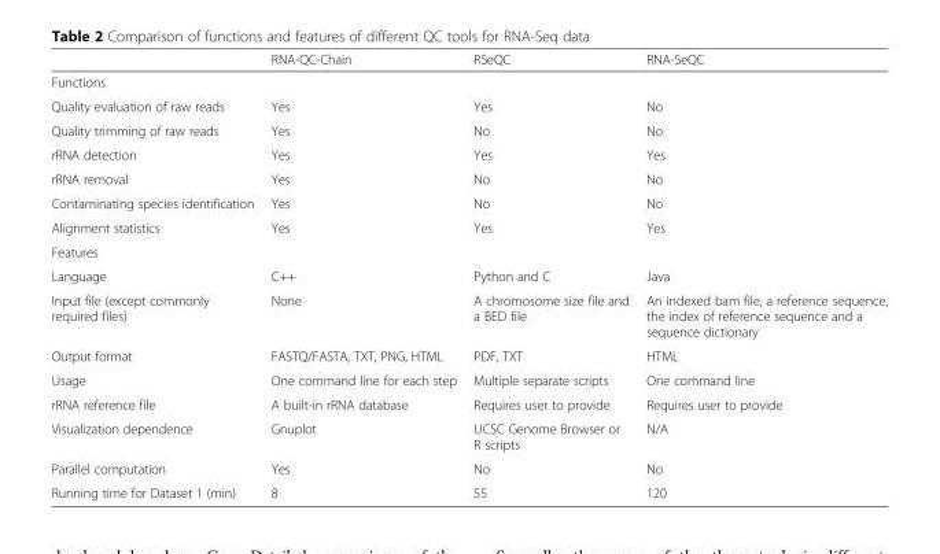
<table><thead><tr><td></td><td>RNA-QC-Chain</td><td>RSeQC</td><td>RNA-SeQC</td></tr></thead><tbody><tr><td colspan="4">Functions</td></tr><tr><td>Quality evaluation of raw reads</td><td>Yes</td><td>Yes</td><td>No</td></tr><tr><td>Quality trimming of raw reads</td><td>Yes</td><td>No</td><td>No</td></tr><tr><td>rRNA detection</td><td>Yes</td><td>Yes</td><td>Yes</td></tr><tr><td>rRNA removal</td><td>Yes</td><td>No</td><td>No</td></tr><tr><td>Contaminating species identification</td><td>Yes</td><td>No</td><td>No</td></tr><tr><td>Alignment statistics</td><td>Yes</td><td>Yes</td><td>Yes</td></tr><tr><td colspan="4">Features</td></tr><tr><td>Language</td><td>C++</td><td>Python and C</td><td>Java</td></tr><tr><td>Input file (except commonly required files)</td><td>None</td><td>A chromosome size file and a BED file</td><td>An indexed bam file, a reference sequence, the index of reference sequence and a sequence dictionary</td></tr><tr><td>Output format</td><td>FASTQ/FASTA, TXT, PNG, HTML</td><td>PDF, TXT</td><td>HTML</td></tr><tr><td>Usage</td><td>One command line for each step</td><td>Multiple separate scripts</td><td>One command line</td></tr><tr><td>rRNA reference file</td><td>A built-in rRNA database</td><td>Requires user to provide</td><td>Requires user to provide</td></tr><tr><td>Visualization dependence</td><td>Gnuplot</td><td>UCSC Genome Browser or R scripts</td><td>N/A</td></tr><tr><td>Parallel computation</td><td>Yes</td><td>No</td><td>No</td></tr><tr><td>Running time for Dataset 1 (min)</td><td>8</td><td>55</td><td>120</td></tr></tbody></table>